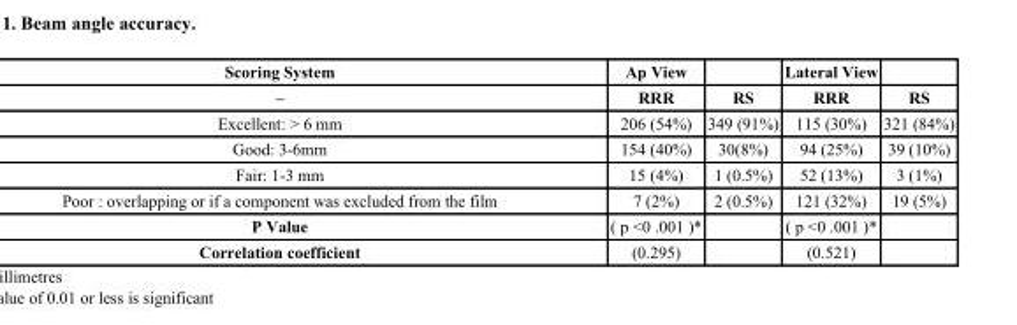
<table><thead><tr><td rowspan="2">Scoring System –</td><td rowspan="2">Ap View RRR</td><td rowspan="2">RS</td><td rowspan="2">Lateral View RRR</td><td rowspan="2">RS</td></tr><tr></tr></thead><tbody><tr><td>Excellent: &gt; 6 mm</td><td>206 (54%)</td><td>349 (91%)</td><td>115 (30%)</td><td>321 (84%)</td></tr><tr><td>Good: 3-6mm</td><td>154 (40%)</td><td>30(8%)</td><td>94 (25%)</td><td>39 (10%)</td></tr><tr><td>Fair: 1-3 mm</td><td>15 (4%)</td><td>1 (0.5%)</td><td>52 (13%)</td><td>3 (1%)</td></tr><tr><td>Poor : overlapping or if a component was excluded from the film</td><td>7 (2%)</td><td>2 (0.5%)</td><td>121 (32%)</td><td>19 (5%)</td></tr><tr><td>P Value</td><td>( p &lt;0 .001 )*</td><td></td><td>( p &lt;0 .001 )*</td><td></td></tr><tr><td>Correlation coefficient</td><td>(0.295)</td><td></td><td>(0.521)</td><td></td></tr></tbody></table>